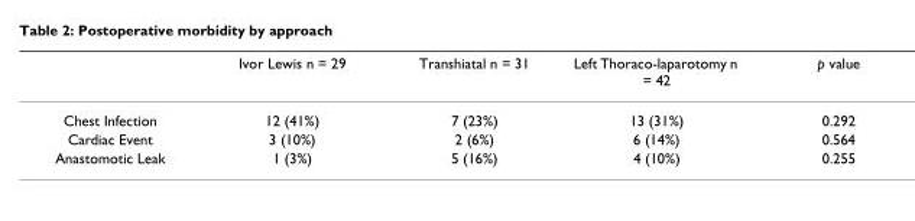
<table><thead><tr><td></td><td>Ivor Lewis n = 29</td><td>Transhiatal n = 31</td><td>Left Thoraco-laparotomy n = 42</td><td>p value</td></tr></thead><tbody><tr><td>Chest Infection</td><td>12 (41%)</td><td>7 (23%)</td><td>13 (31%)</td><td>0.292</td></tr><tr><td>Cardiac Event</td><td>3 (10%)</td><td>2 (6%)</td><td>6 (14%)</td><td>0.564</td></tr><tr><td>Anastomotic Leak</td><td>1 (3%)</td><td>5 (16%)</td><td>4 (10%)</td><td>0.255</td></tr></tbody></table>